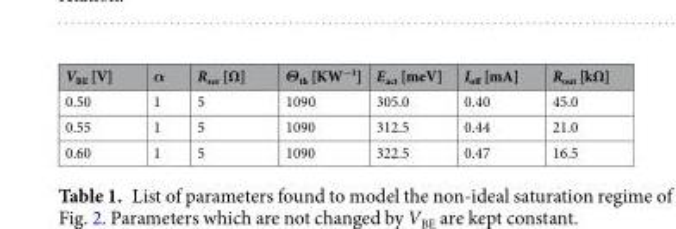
<table><thead><tr><td>V<sub>BE</sub> [V]</td><td>α</td><td>R<sub>ser</sub> [Ω]</td><td>Θ<sub>th</sub> [KW<sup>−1</sup>]</td><td>E<sub>act</sub> [meV]</td><td>I<sub>off</sub> [mA]</td><td>R<sub>out</sub> [kΩ]</td></tr></thead><tbody><tr><td>0.50</td><td>1</td><td>5</td><td>1090</td><td>305.0</td><td>0.40</td><td>45.0</td></tr><tr><td>0.55</td><td>1</td><td>5</td><td>1090</td><td>312.5</td><td>0.44</td><td>21.0</td></tr><tr><td>0.60</td><td>1</td><td>5</td><td>1090</td><td>322.5</td><td>0.47</td><td>16.5</td></tr></tbody></table>